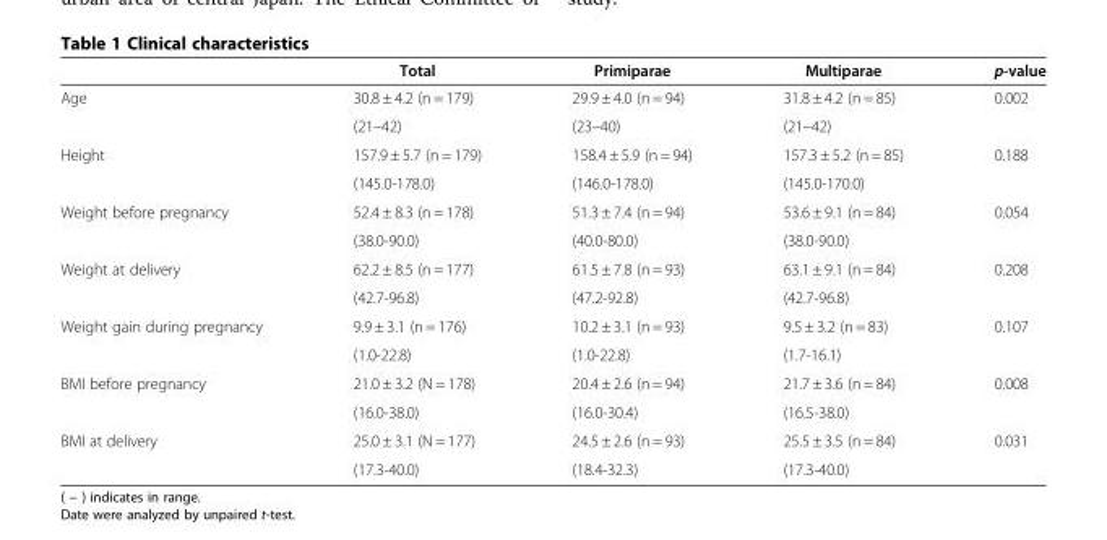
<table><thead><tr><td></td><td>Total</td><td>Primiparae</td><td>Multiparae</td><td>p-value</td></tr></thead><tbody><tr><td rowspan="2">Age</td><td>30.8 ± 4.2 (n = 179)</td><td>29.9 ± 4.0 (n = 94)</td><td>31.8 ± 4.2 (n = 85)</td><td>0.002</td></tr><tr><td>(21–42)</td><td>(23–40)</td><td>(21–42)</td><td></td></tr><tr><td rowspan="2">Height</td><td>157.9 ± 5.7 (n = 179)</td><td>158.4 ± 5.9 (n = 94)</td><td>157.3 ± 5.2 (n = 85)</td><td>0.188</td></tr><tr><td>(145.0-178.0)</td><td>(146.0-178.0)</td><td>(145.0-170.0)</td><td></td></tr><tr><td rowspan="2">Weight before pregnancy</td><td>52.4 ± 8.3 (n = 178)</td><td>51.3 ± 7.4 (n = 94)</td><td>53.6 ± 9.1 (n = 84)</td><td>0.054</td></tr><tr><td>(38.0-90.0)</td><td>(40.0-80.0)</td><td>(38.0-90.0)</td><td></td></tr><tr><td rowspan="2">Weight at delivery</td><td>62.2 ± 8.5 (n = 177)</td><td>61.5 ± 7.8 (n = 93)</td><td>63.1 ± 9.1 (n = 84)</td><td>0.208</td></tr><tr><td>(42.7-96.8)</td><td>(47.2-92.8)</td><td>(42.7-96.8)</td><td></td></tr><tr><td rowspan="2">Weight gain during pregnancy</td><td>9.9 ± 3.1 (n = 176)</td><td>10.2 ± 3.1 (n = 93)</td><td>9.5 ± 3.2 (n = 83)</td><td>0.107</td></tr><tr><td>(1.0-22.8)</td><td>(1.0-22.8)</td><td>(1.7-16.1)</td><td></td></tr><tr><td rowspan="2">BMI before pregnancy</td><td>21.0 ± 3.2 (N = 178)</td><td>20.4 ± 2.6 (n = 94)</td><td>21.7 ± 3.6 (n = 84)</td><td>0.008</td></tr><tr><td>(16.0-38.0)</td><td>(16.0-30.4)</td><td>(16.5-38.0)</td><td></td></tr><tr><td rowspan="2">BMI at delivery</td><td>25.0 ± 3.1 (N = 177)</td><td>24.5 ± 2.6 (n = 93)</td><td>25.5 ± 3.5 (n = 84)</td><td>0.031</td></tr><tr><td>(17.3-40.0)</td><td>(18.4-32.3)</td><td>(17.3-40.0)</td><td></td></tr></tbody></table>